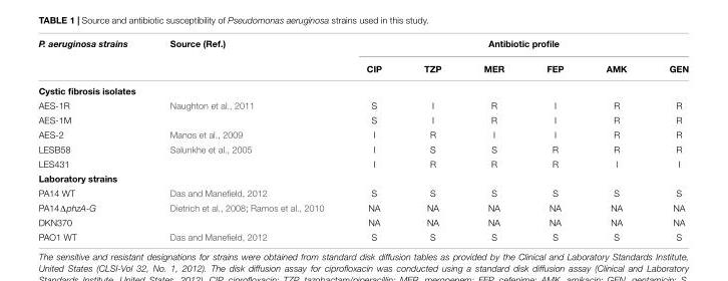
<table><thead><tr><td rowspan="2">P. aeruginosa strains</td><td rowspan="2">Source (Ref.)</td><td colspan="6">Antibiotic profile</td></tr><tr><td>CIP</td><td>TZP</td><td>MER</td><td>FEP</td><td>AMK</td><td>GEN</td></tr></thead><tbody><tr><td colspan="8">Cystic fibrosis isolates</td></tr><tr><td>AES-1R</td><td>Naughton et al., 2011</td><td>S</td><td>I</td><td>R</td><td>I</td><td>R</td><td>R</td></tr><tr><td>AES-1M</td><td></td><td>S</td><td>I</td><td>R</td><td>I</td><td>R</td><td>R</td></tr><tr><td>AES-2</td><td>Manos et al., 2009</td><td>I</td><td>R</td><td>I</td><td>I</td><td>R</td><td>R</td></tr><tr><td>LESB58</td><td>Salunkhe et al., 2005</td><td>I</td><td>S</td><td>S</td><td>R</td><td>R</td><td>R</td></tr><tr><td>LES431</td><td></td><td>I</td><td>R</td><td>R</td><td>R</td><td>I</td><td>I</td></tr><tr><td colspan="8">Laboratory strains</td></tr><tr><td>PA14 WT</td><td>Das and Manefield, 2012</td><td>S</td><td>S</td><td>S</td><td>S</td><td>S</td><td>S</td></tr><tr><td>PA14ΔphzA-G</td><td>Dietrich et al., 2008; Ramos et al., 2010</td><td>NA</td><td>NA</td><td>NA</td><td>NA</td><td>NA</td><td>NA</td></tr><tr><td>DKN370</td><td></td><td>NA</td><td>NA</td><td>NA</td><td>NA</td><td>NA</td><td>NA</td></tr><tr><td>PAO1 WT</td><td>Das and Manefield, 2012</td><td>S</td><td>S</td><td>S</td><td>S</td><td>S</td><td>S</td></tr></tbody></table>